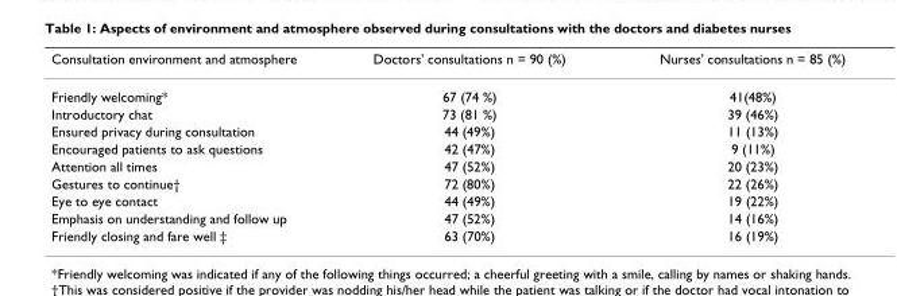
<table><thead><tr><td>Consultation environment and atmosphere</td><td>Doctors&#x27; consultations n = 90 (%)</td><td>Nurses&#x27; consultations n = 85 (%)</td></tr></thead><tbody><tr><td>Friendly welcoming*</td><td>67 (74 %)</td><td>41(48%)</td></tr><tr><td>Introductory chat</td><td>73 (81 %)</td><td>39 (46%)</td></tr><tr><td>Ensured privacy during consultation</td><td>44 (49%)</td><td>11 (13%)</td></tr><tr><td>Encouraged patients to ask questions</td><td>42 (47%)</td><td>9 (11%)</td></tr><tr><td>Attention all times</td><td>47 (52%)</td><td>20 (23%)</td></tr><tr><td>Gestures to continue†</td><td>72 (80%)</td><td>22 (26%)</td></tr><tr><td>Eye to eye contact</td><td>44 (49%)</td><td>19 (22%)</td></tr><tr><td>Emphasis on understanding and follow up</td><td>47 (52%)</td><td>14 (16%)</td></tr><tr><td>Friendly closing and fare well ‡</td><td>63 (70%)</td><td>16 (19%)</td></tr></tbody></table>